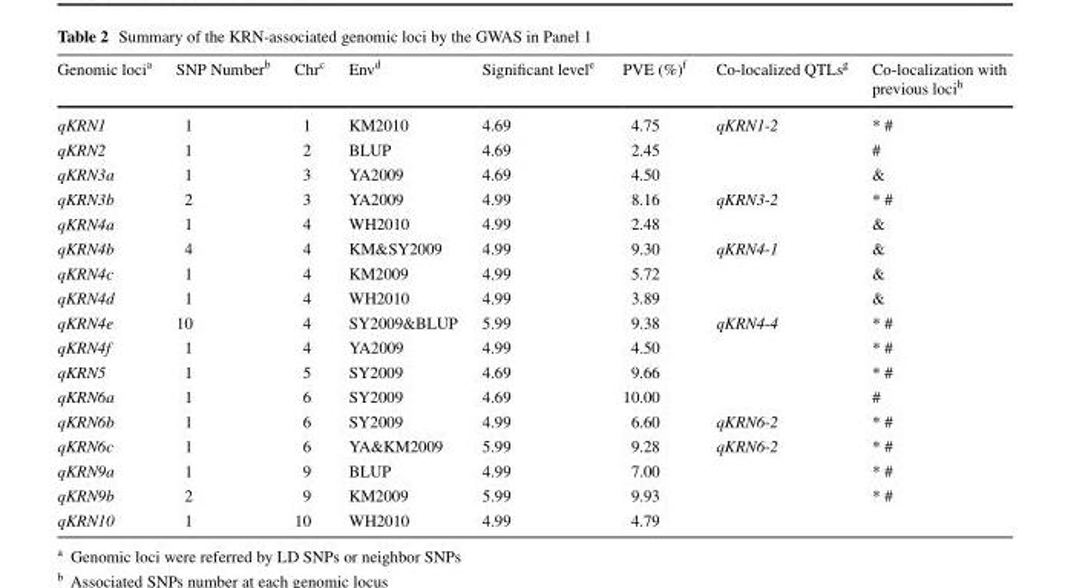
<table><thead><tr><td>Genomic loci<sup>a</sup></td><td>SNP Number<sup>b</sup></td><td>Chr<sup>c</sup></td><td>Env<sup>d</sup></td><td>Significant level<sup>e</sup></td><td>PVE (%)<sup>f</sup></td><td>Co-localized QTLs<sup>g</sup></td><td>Co-localization with previous loci<sup>h</sup></td></tr></thead><tbody><tr><td>qKRN1</td><td>1</td><td>1</td><td>KM2010</td><td>4.69</td><td>4.75</td><td>qKRN1-2</td><td>* #</td></tr><tr><td>qKRN2</td><td>1</td><td>2</td><td>BLUP</td><td>4.69</td><td>2.45</td><td></td><td>#</td></tr><tr><td>qKRN3a</td><td>1</td><td>3</td><td>YA2009</td><td>4.69</td><td>4.50</td><td></td><td>&amp;</td></tr><tr><td>qKRN3b</td><td>2</td><td>3</td><td>YA2009</td><td>4.99</td><td>8.16</td><td>qKRN3-2</td><td>* #</td></tr><tr><td>qKRN4a</td><td>1</td><td>4</td><td>WH2010</td><td>4.99</td><td>2.48</td><td></td><td>&amp;</td></tr><tr><td>qKRN4b</td><td>4</td><td>4</td><td>KM&amp;SY2009</td><td>4.99</td><td>9.30</td><td>qKRN4-1</td><td>&amp;</td></tr><tr><td>qKRN4c</td><td>1</td><td>4</td><td>KM2009</td><td>4.99</td><td>5.72</td><td></td><td>&amp;</td></tr><tr><td>qKRN4d</td><td>1</td><td>4</td><td>WH2010</td><td>4.99</td><td>3.89</td><td></td><td>&amp;</td></tr><tr><td>qKRN4e</td><td>10</td><td>4</td><td>SY2009&amp;BLUP</td><td>5.99</td><td>9.38</td><td>qKRN4-4</td><td>* #</td></tr><tr><td>qKRN4f</td><td>1</td><td>4</td><td>YA2009</td><td>4.99</td><td>4.50</td><td></td><td>* #</td></tr><tr><td>qKRN5</td><td>1</td><td>5</td><td>SY2009</td><td>4.69</td><td>9.66</td><td></td><td>* #</td></tr><tr><td>qKRN6a</td><td>1</td><td>6</td><td>SY2009</td><td>4.69</td><td>10.00</td><td></td><td>#</td></tr><tr><td>qKRN6b</td><td>1</td><td>6</td><td>SY2009</td><td>4.99</td><td>6.60</td><td>qKRN6-2</td><td>* #</td></tr><tr><td>qKRN6c</td><td>1</td><td>6</td><td>YA&amp;KM2009</td><td>5.99</td><td>9.28</td><td>qKRN6-2</td><td>* #</td></tr><tr><td>qKRN9a</td><td>1</td><td>9</td><td>BLUP</td><td>4.99</td><td>7.00</td><td></td><td>* #</td></tr><tr><td>qKRN9b</td><td>2</td><td>9</td><td>KM2009</td><td>5.99</td><td>9.93</td><td></td><td>* #</td></tr><tr><td>qKRN10</td><td>1</td><td>10</td><td>WH2010</td><td>4.99</td><td>4.79</td><td></td><td></td></tr></tbody></table>